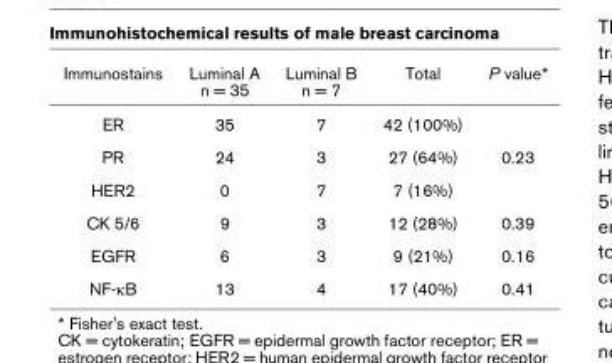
<table><thead><tr><td>Immunostains</td><td>Luminal A n = 35</td><td>Luminal B n = 7</td><td>Total</td><td>P value*</td></tr></thead><tbody><tr><td>ER</td><td>35</td><td>7</td><td>42 (100%)</td><td></td></tr><tr><td>PR</td><td>24</td><td>3</td><td>27 (64%)</td><td>0.23</td></tr><tr><td>HER2</td><td>0</td><td>7</td><td>7 (16%)</td><td></td></tr><tr><td>CK 5/6</td><td>9</td><td>3</td><td>12 (28%)</td><td>0.39</td></tr><tr><td>EGFR</td><td>6</td><td>3</td><td>9 (21%)</td><td>0.16</td></tr><tr><td>NF-κB</td><td>13</td><td>4</td><td>17 (40%)</td><td>0.41</td></tr></tbody></table>